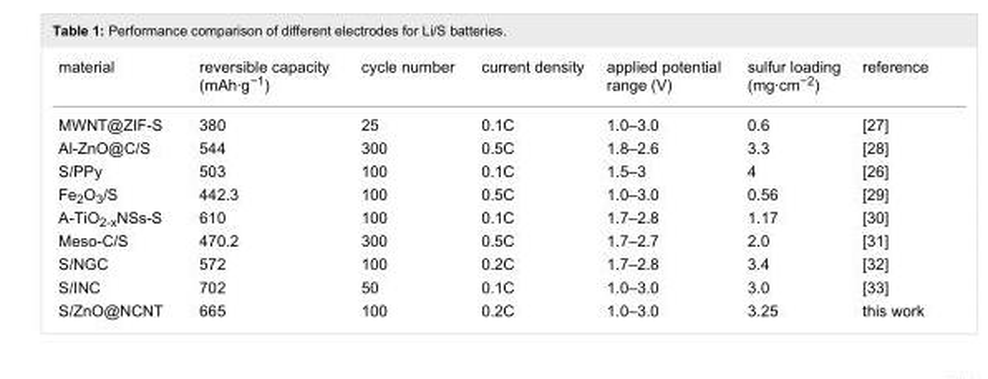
<table><tbody><tr><td>material</td><td>reversible capacity (mAh·g<sup>−1</sup>)</td><td>cycle number</td><td>current density</td><td>applied potential range (V)</td><td>sulfur loading (mg·cm<sup>−2</sup>)</td><td>reference</td></tr><tr><td>MWNT@ZIF-S</td><td>380</td><td>25</td><td>0.1C</td><td>1.0–3.0</td><td>0.6</td><td>[27]</td></tr><tr><td>Al-ZnO@C/S</td><td>544</td><td>300</td><td>0.5C</td><td>1.8–2.6</td><td>3.3</td><td>[28]</td></tr><tr><td>S/PPy</td><td>503</td><td>100</td><td>0.1C</td><td>1.5–3</td><td>4</td><td>[26]</td></tr><tr><td>Fe<sub>2</sub>O<sub>3</sub>/S</td><td>442.3</td><td>100</td><td>0.5C</td><td>1.0–3.0</td><td>0.56</td><td>[29]</td></tr><tr><td>A-TiO<sub>2-x</sub>NSs-S</td><td>610</td><td>100</td><td>0.1C</td><td>1.7–2.8</td><td>1.17</td><td>[30]</td></tr><tr><td>Meso-C/S</td><td>470.2</td><td>300</td><td>0.5C</td><td>1.7–2.7</td><td>2.0</td><td>[31]</td></tr><tr><td>S/NGC</td><td>572</td><td>100</td><td>0.2C</td><td>1.7–2.8</td><td>3.4</td><td>[32]</td></tr><tr><td>S/INC</td><td>702</td><td>50</td><td>0.1C</td><td>1.0–3.0</td><td>3.0</td><td>[33]</td></tr><tr><td>S/ZnO@NCNT</td><td>665</td><td>100</td><td>0.2C</td><td>1.0–3.0</td><td>3.25</td><td>this work</td></tr></tbody></table>